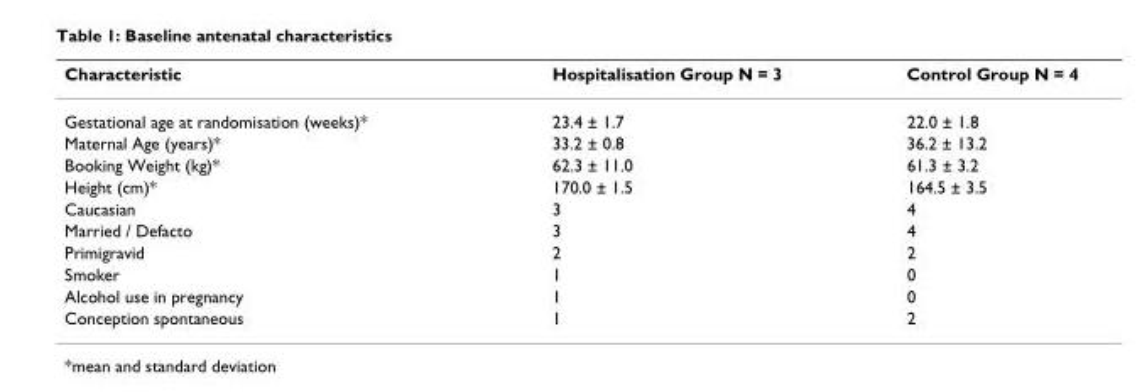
<table><thead><tr><td>Characteristic</td><td>Hospitalisation Group N = 3</td><td>Control Group N = 4</td></tr></thead><tbody><tr><td>Gestational age at randomisation (weeks)*</td><td>23.4 ± 1.7</td><td>22.0 ± 1.8</td></tr><tr><td>Maternal Age (years)*</td><td>33.2 ± 0.8</td><td>36.2 ± 13.2</td></tr><tr><td>Booking Weight (kg)*</td><td>62.3 ± 11.0</td><td>61.3 ± 3.2</td></tr><tr><td>Height (cm)*</td><td>170.0 ± 1.5</td><td>164.5 ± 3.5</td></tr><tr><td>Caucasian</td><td>3</td><td>4</td></tr><tr><td>Married / Defacto</td><td>3</td><td>4</td></tr><tr><td>Primigravid</td><td>2</td><td>2</td></tr><tr><td>Smoker</td><td>1</td><td>0</td></tr><tr><td>Alcohol use in pregnancy</td><td>1</td><td>0</td></tr><tr><td>Conception spontaneous</td><td>1</td><td>2</td></tr></tbody></table>